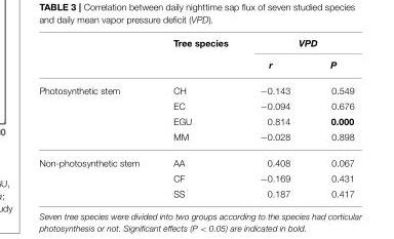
<table><thead><tr><td rowspan="2"></td><td rowspan="2">Tree species</td><td colspan="2">VPD</td></tr><tr><td>r</td><td>P</td></tr></thead><tbody><tr><td rowspan="4">Photosynthetic stem</td><td>CH</td><td>−0.143</td><td>0.549</td></tr><tr><td>EC</td><td>−0.094</td><td>0.676</td></tr><tr><td>EGU</td><td>0.814</td><td>0.000</td></tr><tr><td>MM</td><td>−0.028</td><td>0.898</td></tr><tr><td rowspan="3">Non-photosynthetic stem</td><td>AA</td><td>0.408</td><td>0.067</td></tr><tr><td>CF</td><td>−0.169</td><td>0.431</td></tr><tr><td>SS</td><td>0.187</td><td>0.417</td></tr></tbody></table>